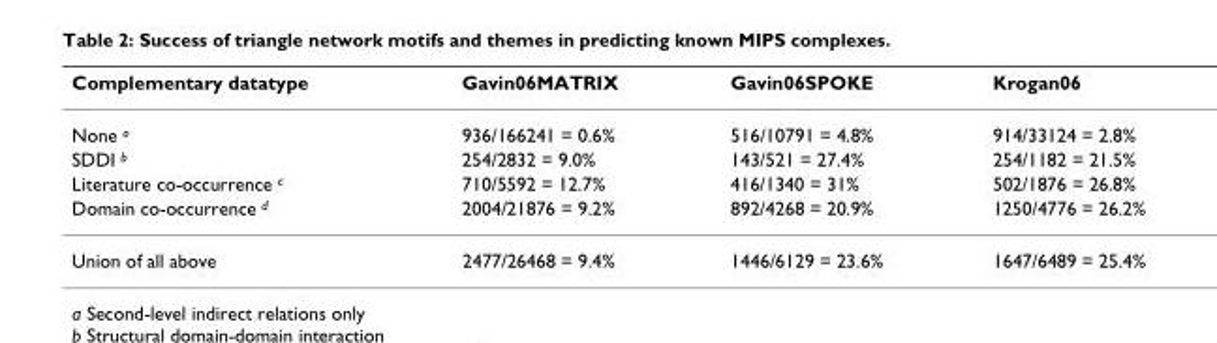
<table><thead><tr><td>Complementary datatype</td><td>Gavin06MATRIX</td><td>Gavin06SPOKE</td><td>Krogan06</td></tr></thead><tbody><tr><td>None <sup>a</sup></td><td>936/166241 = 0.6%</td><td>516/10791 = 4.8%</td><td>914/33124 = 2.8%</td></tr><tr><td>SDDI <sup>b</sup></td><td>254/2832 = 9.0%</td><td>143/521 = 27.4%</td><td>254/1182 = 21.5%</td></tr><tr><td>Literature co-occurrence <sup>c</sup></td><td>710/5592 = 12.7%</td><td>416/1340 = 31%</td><td>502/1876 = 26.8%</td></tr><tr><td>Domain co-occurrence <sup>d</sup></td><td>2004/21876 = 9.2%</td><td>892/4268 = 20.9%</td><td>1250/4776 = 26.2%</td></tr><tr><td>Union of all above</td><td>2477/26468 = 9.4%</td><td>1446/6129 = 23.6%</td><td>1647/6489 = 25.4%</td></tr></tbody></table>